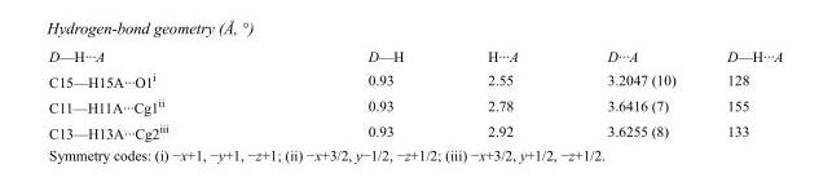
<table><tbody><tr><td>D—H···A</td><td>D—H</td><td>H···A</td><td>D···A</td><td>D—H···A</td></tr><tr><td>C15—H15A···O1<sup>i</sup></td><td>0.93</td><td>2.55</td><td>3.2047 (10)</td><td>128</td></tr><tr><td>C11—H11A···Cg1<sup>ii</sup></td><td>0.93</td><td>2.78</td><td>3.6416 (7)</td><td>155</td></tr><tr><td>C13—H13A···Cg2<sup>iii</sup></td><td>0.93</td><td>2.92</td><td>3.6255 (8)</td><td>133</td></tr></tbody></table>